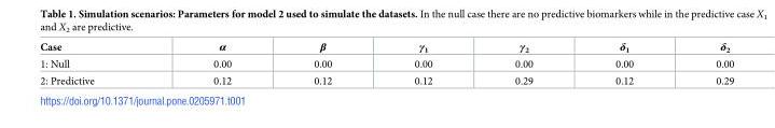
<table><thead><tr><td>Case</td><td>α</td><td>β</td><td>γ<sub>1</sub></td><td>γ<sub>2</sub></td><td>δ<sub>1</sub></td><td>δ<sub>2</sub></td></tr></thead><tbody><tr><td>1: Null</td><td>0.00</td><td>0.00</td><td>0.00</td><td>0.00</td><td>0.00</td><td>0.00</td></tr><tr><td>2: Predictive</td><td>0.12</td><td>0.12</td><td>0.12</td><td>0.29</td><td>0.12</td><td>0.29</td></tr></tbody></table>